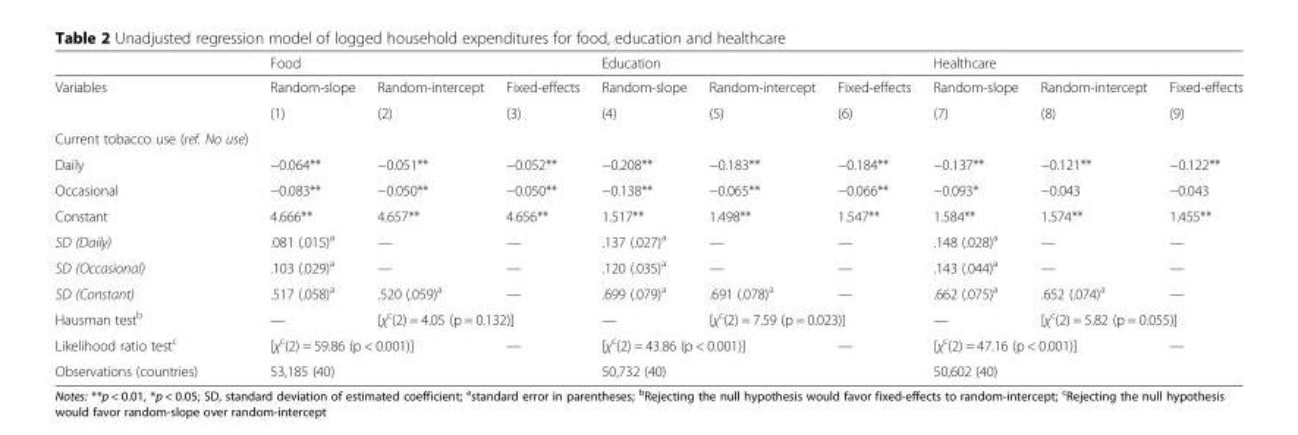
<table><thead><tr><td rowspan="2">Variables</td><td colspan="3">Food</td><td colspan="3">Education</td><td colspan="3">Healthcare</td></tr><tr><td>Random-slope</td><td>Random-intercept</td><td>Fixed-effects</td><td>Random-slope</td><td>Random-intercept</td><td>Fixed-effects</td><td>Random-slope</td><td>Random-intercept</td><td>Fixed-effects</td></tr></thead><tbody><tr><td></td><td>(1)</td><td>(2)</td><td>(3)</td><td>(4)</td><td>(5)</td><td>(6)</td><td>(7)</td><td>(8)</td><td>(9)</td></tr><tr><td colspan="10">Current tobacco use (ref. No use)</td></tr><tr><td>Daily</td><td>−0.064**</td><td>−0.051**</td><td>−0.052**</td><td>−0.208**</td><td>−0.183**</td><td>−0.184**</td><td>−0.137**</td><td>−0.121**</td><td>−0.122**</td></tr><tr><td>Occasional</td><td>−0.083**</td><td>−0.050**</td><td>−0.050**</td><td>−0.138**</td><td>−0.065**</td><td>−0.066**</td><td>−0.093*</td><td>−0.043</td><td>−0.043</td></tr><tr><td>Constant</td><td>4.666**</td><td>4.657**</td><td>4.656**</td><td>1.517**</td><td>1.498**</td><td>1.547**</td><td>1.584**</td><td>1.574**</td><td>1.455**</td></tr><tr><td>SD (Daily)</td><td>.081 (.015)<sup>a</sup></td><td>—</td><td>—</td><td>.137 (.027)<sup>a</sup></td><td>—</td><td>—</td><td>.148 (.028)<sup>a</sup></td><td>—</td><td>—</td></tr><tr><td>SD (Occasional)</td><td>.103 (.029)<sup>a</sup></td><td>—</td><td>—</td><td>.120 (.035)<sup>a</sup></td><td>—</td><td>—</td><td>.143 (.044)<sup>a</sup></td><td>—</td><td>—</td></tr><tr><td>SD (Constant)</td><td>.517 (.058)<sup>a</sup></td><td>.520 (.059)<sup>a</sup></td><td>—</td><td>.699 (.079)<sup>a</sup></td><td>.691 (.078)<sup>a</sup></td><td>—</td><td>.662 (.075)<sup>a</sup></td><td>.652 (.074)<sup>a</sup></td><td>—</td></tr><tr><td>Hausman test<sup>b</sup></td><td>—</td><td colspan="2">[χ<sup>c</sup>(2) = 4.05 (p = 0.132)]</td><td>—</td><td colspan="2">[χ<sup>c</sup>(2) = 7.59 (p = 0.023)]</td><td>—</td><td colspan="2">[χ<sup>c</sup>(2) = 5.82 (p = 0.055)]</td></tr><tr><td>Likelihood ratio test<sup>c</sup></td><td colspan="2">[χ<sup>c</sup>(2) = 59.86 (p &lt; 0.001)]</td><td>—</td><td colspan="2">[χ<sup>c</sup>(2) = 43.86 (p &lt; 0.001)]</td><td>—</td><td colspan="2">[χ<sup>c</sup>(2) = 47.16 (p &lt; 0.001)]</td><td>—</td></tr><tr><td>Observations (countries)</td><td colspan="3">53,185 (40)</td><td colspan="3">50,732 (40)</td><td colspan="3">50,602 (40)</td></tr></tbody></table>